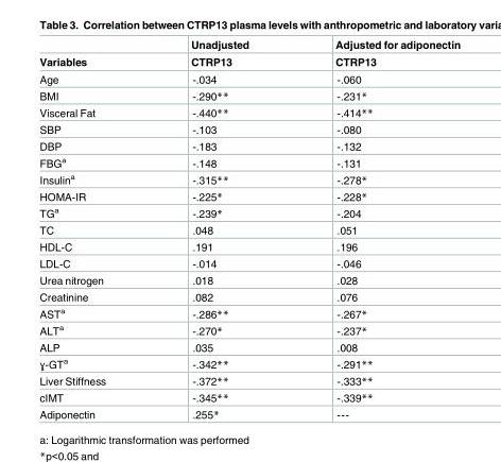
<table><thead><tr><td rowspan="2">Variables</td><td rowspan="2">Unadjusted CTRP13</td><td rowspan="2">Adjusted for adiponectin CTRP13</td></tr><tr></tr></thead><tbody><tr><td>Age</td><td>-.034</td><td>-.060</td></tr><tr><td>BMI</td><td>-.290**</td><td>-.231*</td></tr><tr><td>Visceral Fat</td><td>-.440**</td><td>-.414**</td></tr><tr><td>SBP</td><td>-.103</td><td>-.080</td></tr><tr><td>DBP</td><td>-.183</td><td>-.132</td></tr><tr><td>FBG<sup>a</sup></td><td>-.148</td><td>-.131</td></tr><tr><td>Insulin<sup>a</sup></td><td>-.315**</td><td>-.278*</td></tr><tr><td>HOMA-IR</td><td>-.225*</td><td>-.228*</td></tr><tr><td>TG<sup>a</sup></td><td>-.239*</td><td>-.204</td></tr><tr><td>TC</td><td>.048</td><td>.051</td></tr><tr><td>HDL-C</td><td>.191</td><td>.196</td></tr><tr><td>LDL-C</td><td>-.014</td><td>-.046</td></tr><tr><td>Urea nitrogen</td><td>.018</td><td>.028</td></tr><tr><td>Creatinine</td><td>.082</td><td>.076</td></tr><tr><td>AST<sup>a</sup></td><td>-.286**</td><td>-.267*</td></tr><tr><td>ALT<sup>a</sup></td><td>-.270*</td><td>-.237*</td></tr><tr><td>ALP</td><td>.035</td><td>.008</td></tr><tr><td>ɣ-GT<sup>a</sup></td><td>-.342**</td><td>-.291**</td></tr><tr><td>Liver Stiffness</td><td>-.372**</td><td>-.333**</td></tr><tr><td>cIMT</td><td>-.345**</td><td>-.339**</td></tr><tr><td>Adiponectin</td><td>.255*</td><td>---</td></tr></tbody></table>